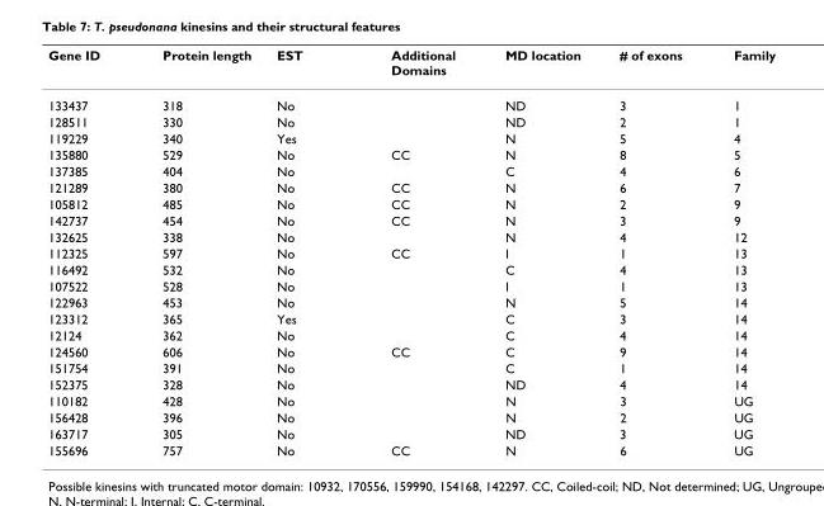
<table><thead><tr><td>Gene ID</td><td>Protein length</td><td>EST</td><td>Additional Domains</td><td>MD location</td><td># of exons</td><td>Family</td></tr></thead><tbody><tr><td>133437</td><td>318</td><td>No</td><td></td><td>ND</td><td>3</td><td>1</td></tr><tr><td>128511</td><td>330</td><td>No</td><td></td><td>ND</td><td>2</td><td>1</td></tr><tr><td>119229</td><td>340</td><td>Yes</td><td></td><td>N</td><td>5</td><td>4</td></tr><tr><td>135880</td><td>529</td><td>No</td><td>CC</td><td>N</td><td>8</td><td>5</td></tr><tr><td>137385</td><td>404</td><td>No</td><td></td><td>C</td><td>4</td><td>6</td></tr><tr><td>121289</td><td>380</td><td>No</td><td>CC</td><td>N</td><td>6</td><td>7</td></tr><tr><td>105812</td><td>485</td><td>No</td><td>CC</td><td>N</td><td>2</td><td>9</td></tr><tr><td>142737</td><td>454</td><td>No</td><td>CC</td><td>N</td><td>3</td><td>9</td></tr><tr><td>132625</td><td>338</td><td>No</td><td></td><td>N</td><td>4</td><td>12</td></tr><tr><td>112325</td><td>597</td><td>No</td><td>CC</td><td>I</td><td>1</td><td>13</td></tr><tr><td>116492</td><td>532</td><td>No</td><td></td><td>C</td><td>4</td><td>13</td></tr><tr><td>107522</td><td>528</td><td>No</td><td></td><td>I</td><td>1</td><td>13</td></tr><tr><td>122963</td><td>453</td><td>No</td><td></td><td>N</td><td>5</td><td>14</td></tr><tr><td>123312</td><td>365</td><td>Yes</td><td></td><td>C</td><td>3</td><td>14</td></tr><tr><td>12124</td><td>362</td><td>No</td><td></td><td>C</td><td>4</td><td>14</td></tr><tr><td>124560</td><td>606</td><td>No</td><td>CC</td><td>C</td><td>9</td><td>14</td></tr><tr><td>151754</td><td>391</td><td>No</td><td></td><td>C</td><td>1</td><td>14</td></tr><tr><td>152375</td><td>328</td><td>No</td><td></td><td>ND</td><td>4</td><td>14</td></tr><tr><td>110182</td><td>428</td><td>No</td><td></td><td>N</td><td>3</td><td>UG</td></tr><tr><td>156428</td><td>396</td><td>No</td><td></td><td>N</td><td>2</td><td>UG</td></tr><tr><td>163717</td><td>305</td><td>No</td><td></td><td>ND</td><td>3</td><td>UG</td></tr><tr><td>155696</td><td>757</td><td>No</td><td>CC</td><td>N</td><td>6</td><td>UG</td></tr></tbody></table>